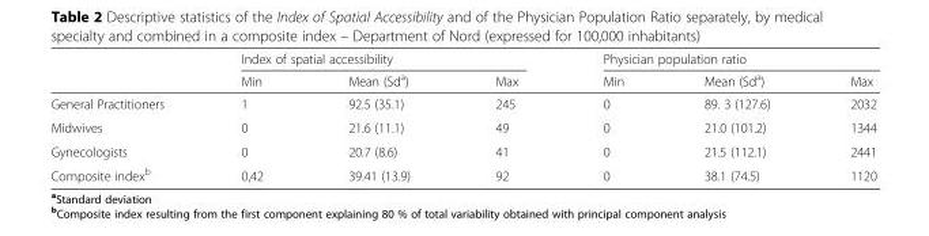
<table><thead><tr><td rowspan="2"></td><td colspan="3">Index of spatial accessibility</td><td colspan="3">Physician population ratio</td></tr><tr><td>Min</td><td>Mean (Sd<sup>a</sup>)</td><td>Max</td><td>Min</td><td>Mean (Sd<sup>a</sup>)</td><td>Max</td></tr></thead><tbody><tr><td>General Practitioners</td><td>1</td><td>92.5 (35.1)</td><td>245</td><td>0</td><td>89. 3 (127.6)</td><td>2032</td></tr><tr><td>Midwives</td><td>0</td><td>21.6 (11.1)</td><td>49</td><td>0</td><td>21.0 (101.2)</td><td>1344</td></tr><tr><td>Gynecologists</td><td>0</td><td>20.7 (8.6)</td><td>41</td><td>0</td><td>21.5 (112.1)</td><td>2441</td></tr><tr><td>Composite index<sup>b</sup></td><td>0,42</td><td>39.41 (13.9)</td><td>92</td><td>0</td><td>38.1 (74.5)</td><td>1120</td></tr></tbody></table>